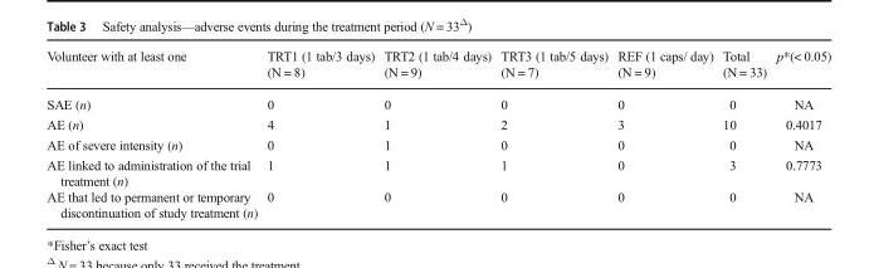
<table><thead><tr><td>Volunteer with at least one</td><td>TRT1 (1 tab/3 days) (N = 8)</td><td>TRT2 (1 tab/4 days) (N = 9)</td><td>TRT3 (1 tab/5 days) (N = 7)</td><td>REF (1 caps/ day) (N = 9)</td><td>Total (N = 33)</td><td>p*(&lt; 0.05)</td></tr></thead><tbody><tr><td>SAE (n)</td><td>0</td><td>0</td><td>0</td><td>0</td><td>0</td><td>NA</td></tr><tr><td>AE (n)</td><td>4</td><td>1</td><td>2</td><td>3</td><td>10</td><td>0.4017</td></tr><tr><td>AE of severe intensity (n)</td><td>0</td><td>1</td><td>0</td><td>0</td><td>0</td><td>NA</td></tr><tr><td>AE linked to administration of the trial treatment (n)</td><td>1</td><td>1</td><td>1</td><td>0</td><td>3</td><td>0.7773</td></tr><tr><td>AE that led to permanent or temporary discontinuation of study treatment (n)</td><td>0</td><td>0</td><td>0</td><td>0</td><td>0</td><td>NA</td></tr></tbody></table>